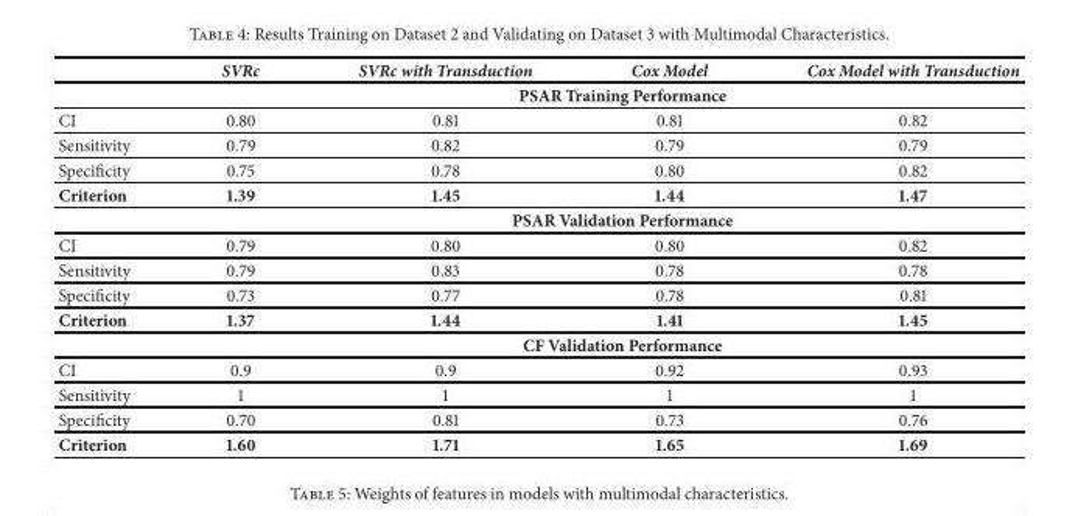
<table><thead><tr><td></td><td>SVRc</td><td>SVRc with Transduction</td><td>Cox Model</td><td>Cox Model with Transduction</td></tr></thead><tbody><tr><td></td><td colspan="4">PSAR Training Performance</td></tr><tr><td>CI</td><td>0.80</td><td>0.81</td><td>0.81</td><td>0.82</td></tr><tr><td>Sensitivity</td><td>0.79</td><td>0.82</td><td>0.79</td><td>0.79</td></tr><tr><td>Specificity</td><td>0.75</td><td>0.78</td><td>0.80</td><td>0.82</td></tr><tr><td rowspan="2">Criterion</td><td>1.39</td><td>1.45</td><td>1.44</td><td>1.47</td></tr><tr><td colspan="4">PSAR Validation Performance</td></tr><tr><td>CI</td><td>0.79</td><td>0.80</td><td>0.80</td><td>0.82</td></tr><tr><td>Sensitivity</td><td>0.79</td><td>0.83</td><td>0.78</td><td>0.78</td></tr><tr><td>Specificity</td><td>0.73</td><td>0.77</td><td>0.78</td><td>0.81</td></tr><tr><td rowspan="2">Criterion</td><td>1.37</td><td>1.44</td><td>1.41</td><td>1.45</td></tr><tr><td colspan="4">CF Validation Performance</td></tr><tr><td>CI</td><td>0.9</td><td>0.9</td><td>0.92</td><td>0.93</td></tr><tr><td>Sensitivity</td><td>1</td><td>1</td><td>1</td><td>1</td></tr><tr><td>Specificity</td><td>0.70</td><td>0.81</td><td>0.73</td><td>0.76</td></tr><tr><td>Criterion</td><td>1.60</td><td>1.71</td><td>1.65</td><td>1.69</td></tr></tbody></table>